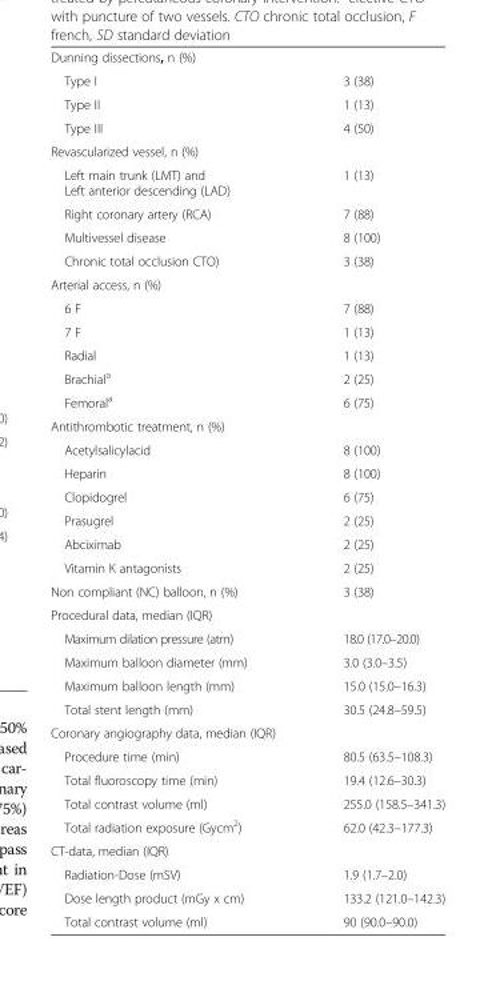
<table><tbody><tr><td colspan="2">Dunning dissections, n (%)</td></tr><tr><td>Type I</td><td>3 (38)</td></tr><tr><td>Type II</td><td>1 (13)</td></tr><tr><td>Type III</td><td>4 (50)</td></tr><tr><td colspan="2">Revascularized vessel, n (%)</td></tr><tr><td>Left main trunk (LMT) and Left anterior descending (LAD)</td><td>1 (13)</td></tr><tr><td>Right coronary artery (RCA)</td><td>7 (88)</td></tr><tr><td>Multivessel disease</td><td>8 (100)</td></tr><tr><td>Chronic total occlusion CTO)</td><td>3 (38)</td></tr><tr><td colspan="2">Arterial access, n (%)</td></tr><tr><td>6 F</td><td>7 (88)</td></tr><tr><td>7 F</td><td>1 (13)</td></tr><tr><td>Radial</td><td>1 (13)</td></tr><tr><td>Brachial<sup>a</sup></td><td>2 (25)</td></tr><tr><td>Femoral<sup>a</sup></td><td>6 (75)</td></tr><tr><td colspan="2">Antithrombotic treatment, n (%)</td></tr><tr><td>Acetylsalicylacid</td><td>8 (100)</td></tr><tr><td>Heparin</td><td>8 (100)</td></tr><tr><td>Clopidogrel</td><td>6 (75)</td></tr><tr><td>Prasugrel</td><td>2 (25)</td></tr><tr><td>Abciximab</td><td>2 (25)</td></tr><tr><td>Vitamin K antagonists</td><td>2 (25)</td></tr><tr><td>Non compliant (NC) balloon, n (%)</td><td>3 (38)</td></tr><tr><td colspan="2">Procedural data, median (IQR)</td></tr><tr><td>Maximum dilation pressure (atm)</td><td>18.0 (17.0–20.0)</td></tr><tr><td>Maximum balloon diameter (mm)</td><td>3.0 (3.0–3.5)</td></tr><tr><td>Maximum balloon length (mm)</td><td>15.0 (15.0–16.3)</td></tr><tr><td>Total stent length (mm)</td><td>30.5 (24.8–59.5)</td></tr><tr><td colspan="2">Coronary angiography data, median (IQR)</td></tr><tr><td>Procedure time (min)</td><td>80.5 (63.5–108.3)</td></tr><tr><td>Total fluoroscopy time (min)</td><td>19.4 (12.6–30.3)</td></tr><tr><td>Total contrast volume (ml)</td><td>255.0 (158.5–341.3)</td></tr><tr><td>Total radiation exposure (Gycm<sup>2</sup>)</td><td>62.0 (42.3–177.3)</td></tr><tr><td colspan="2">CT-data, median (IQR)</td></tr><tr><td>Radiation-Dose (mSV)</td><td>1.9 (1.7–2.0)</td></tr><tr><td>Dose length product (mGy x cm)</td><td>133.2 (121.0–142.3)</td></tr><tr><td>Total contrast volume (ml)</td><td>90 (90.0–90.0)</td></tr></tbody></table>